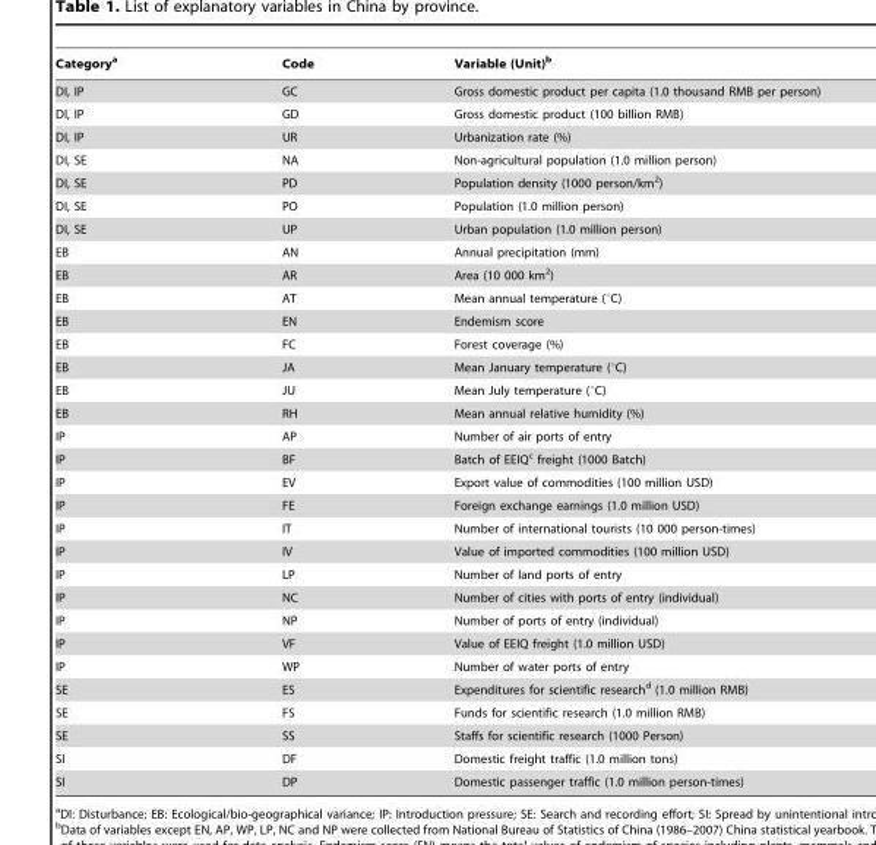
<table><thead><tr><td>Category<sup>a</sup></td><td>Code</td><td>Variable (Unit)<sup>b</sup></td></tr></thead><tbody><tr><td>DI, IP</td><td>GC</td><td>Gross domestic product per capita (1.0 thousand RMB per person)</td></tr><tr><td>DI, IP</td><td>GD</td><td>Gross domestic product (100 billion RMB)</td></tr><tr><td>DI, IP</td><td>UR</td><td>Urbanization rate (%)</td></tr><tr><td>DI, SE</td><td>NA</td><td>Non-agricultural population (1.0 million person)</td></tr><tr><td>DI, SE</td><td>PD</td><td>Population density (1000 person/km<sup>2</sup>)</td></tr><tr><td>DI, SE</td><td>PO</td><td>Population (1.0 million person)</td></tr><tr><td>DI, SE</td><td>UP</td><td>Urban population (1.0 million person)</td></tr><tr><td>EB</td><td>AN</td><td>Annual precipitation (mm)</td></tr><tr><td>EB</td><td>AR</td><td>Area (10 000 km<sup>2</sup>)</td></tr><tr><td>EB</td><td>AT</td><td>Mean annual temperature (°C)</td></tr><tr><td>EB</td><td>EN</td><td>Endemism score</td></tr><tr><td>EB</td><td>FC</td><td>Forest coverage (%)</td></tr><tr><td>EB</td><td>JA</td><td>Mean January temperature (°C)</td></tr><tr><td>EB</td><td>JU</td><td>Mean July temperature (°C)</td></tr><tr><td>EB</td><td>RH</td><td>Mean annual relative humidity (%)</td></tr><tr><td>IP</td><td>AP</td><td>Number of air ports of entry</td></tr><tr><td>IP</td><td>BF</td><td>Batch of EEIQ<sup>c</sup> freight (1000 Batch)</td></tr><tr><td>IP</td><td>EV</td><td>Export value of commodities (100 million USD)</td></tr><tr><td>IP</td><td>FE</td><td>Foreign exchange earnings (1.0 million USD)</td></tr><tr><td>IP</td><td>IT</td><td>Number of international tourists (10 000 person-times)</td></tr><tr><td>IP</td><td>IV</td><td>Value of imported commodities (100 million USD)</td></tr><tr><td>IP</td><td>LP</td><td>Number of land ports of entry</td></tr><tr><td>IP</td><td>NC</td><td>Number of cities with ports of entry (individual)</td></tr><tr><td>IP</td><td>NP</td><td>Number of ports of entry (individual)</td></tr><tr><td>IP</td><td>VF</td><td>Value of EEIQ freight (1.0 million USD)</td></tr><tr><td>IP</td><td>WP</td><td>Number of water ports of entry</td></tr><tr><td>SE</td><td>ES</td><td>Expenditures for scientific research<sup>d</sup> (1.0 million RMB)</td></tr><tr><td>SE</td><td>FS</td><td>Funds for scientific research (1.0 million RMB)</td></tr><tr><td>SE</td><td>SS</td><td>Staffs for scientific research (1000 Person)</td></tr><tr><td>SI</td><td>DF</td><td>Domestic freight traffic (1.0 million tons)</td></tr><tr><td>SI</td><td>DP</td><td>Domestic passenger traffic (1.0 million person-times)</td></tr></tbody></table>